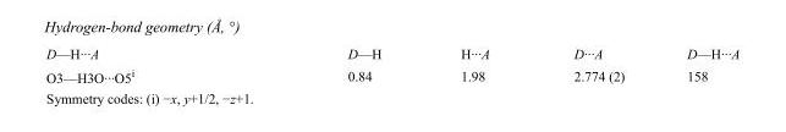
<table><tbody><tr><td>D—H···A</td><td>D—H</td><td>H···A</td><td>D···A</td><td>D—H···A</td></tr><tr><td>O3—H3O···O5<sup>i</sup></td><td>0.84</td><td>1.98</td><td>2.774 (2)</td><td>158</td></tr></tbody></table>